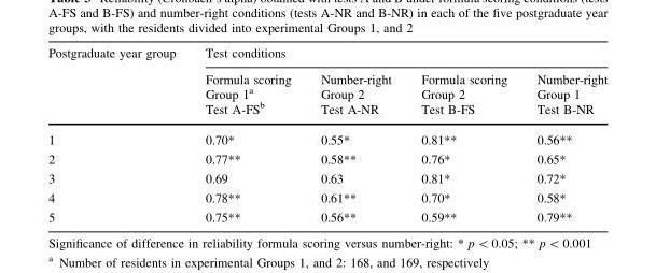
<table><thead><tr><td rowspan="4">Postgraduate year group</td><td colspan="4">Test conditions</td></tr><tr><td rowspan="3">Formula scoring Group 1<sup>a</sup> Test A-FS<sup>b</sup></td><td rowspan="3">Number-right Group 2 Test A-NR</td><td rowspan="3">Formula scoring Group 2 Test B-FS</td><td rowspan="3">Number-right Group 1 Test B-NR</td></tr><tr></tr><tr></tr></thead><tbody><tr><td>1</td><td>0.70*</td><td>0.55*</td><td>0.81**</td><td>0.56**</td></tr><tr><td>2</td><td>0.77**</td><td>0.58**</td><td>0.76*</td><td>0.65*</td></tr><tr><td>3</td><td>0.69</td><td>0.63</td><td>0.81*</td><td>0.72*</td></tr><tr><td>4</td><td>0.78**</td><td>0.61**</td><td>0.70*</td><td>0.58*</td></tr><tr><td>5</td><td>0.75**</td><td>0.56**</td><td>0.59**</td><td>0.79**</td></tr></tbody></table>